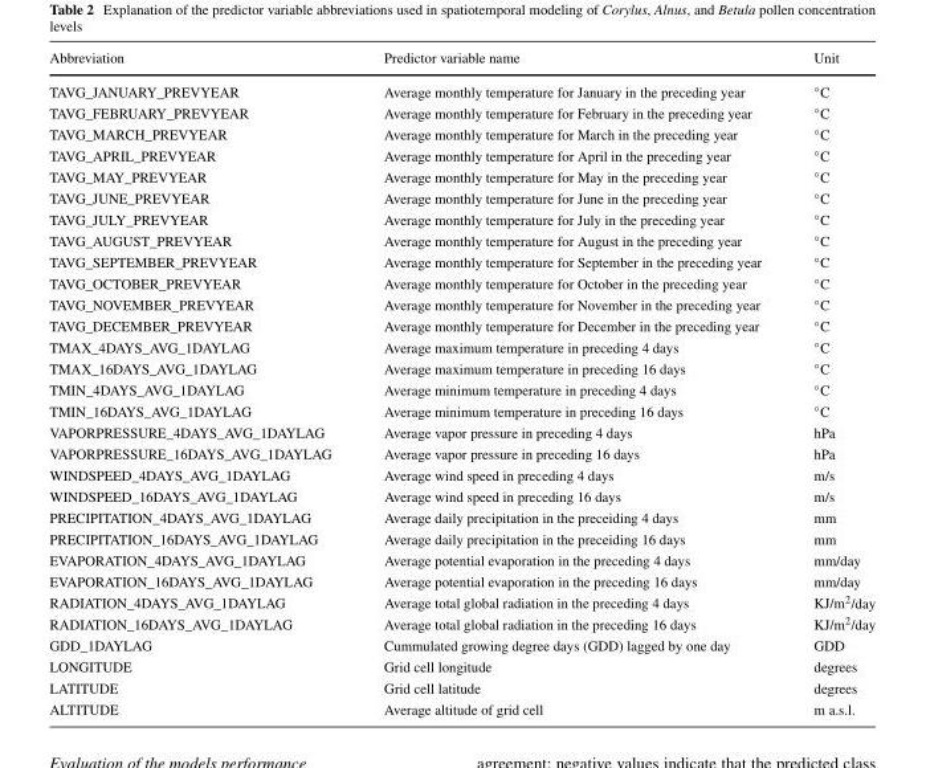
<table><thead><tr><td>Abbreviation</td><td>Predictor variable name</td><td>Unit</td></tr></thead><tbody><tr><td>TAVG_JANUARY_PREVYEAR</td><td>Average monthly temperature for January in the preceding year</td><td>◦C</td></tr><tr><td>TAVG_FEBRUARY_PREVYEAR</td><td>Average monthly temperature for February in the preceding year</td><td>◦C</td></tr><tr><td>TAVG_MARCH_PREVYEAR</td><td>Average monthly temperature for March in the preceding year</td><td>◦C</td></tr><tr><td>TAVG_APRIL_PREVYEAR</td><td>Average monthly temperature for April in the preceding year</td><td>◦C</td></tr><tr><td>TAVG_MAY_PREVYEAR</td><td>Average monthly temperature for May in the preceding year</td><td>◦C</td></tr><tr><td>TAVG_JUNE_PREVYEAR</td><td>Average monthly temperature for June in the preceding year</td><td>◦C</td></tr><tr><td>TAVG_JULY_PREVYEAR</td><td>Average monthly temperature for July in the preceding year</td><td>◦C</td></tr><tr><td>TAVG_AUGUST_PREVYEAR</td><td>Average monthly temperature for August in the preceding year</td><td>◦C</td></tr><tr><td>TAVG_SEPTEMBER_PREVYEAR</td><td>Average monthly temperature for September in the preceding year</td><td>◦C</td></tr><tr><td>TAVG_OCTOBER_PREVYEAR</td><td>Average monthly temperature for October in the preceding year</td><td>◦C</td></tr><tr><td>TAVG_NOVEMBER_PREVYEAR</td><td>Average monthly temperature for November in the preceding year</td><td>◦C</td></tr><tr><td>TAVG_DECEMBER_PREVYEAR</td><td>Average monthly temperature for December in the preceding year</td><td>◦C</td></tr><tr><td>TMAX_4DAYS_AVG_1DAYLAG</td><td>Average maximum temperature in preceding 4 days</td><td>◦C</td></tr><tr><td>TMAX_16DAYS_AVG_1DAYLAG</td><td>Average maximum temperature in preceding 16 days</td><td>◦C</td></tr><tr><td>TMIN_4DAYS_AVG_1DAYLAG</td><td>Average minimum temperature in preceding 4 days</td><td>◦C</td></tr><tr><td>TMIN_16DAYS_AVG_1DAYLAG</td><td>Average minimum temperature in preceding 16 days</td><td>◦C</td></tr><tr><td>VAPORPRESSURE_4DAYS_AVG_1DAYLAG</td><td>Average vapor pressure in preceding 4 days</td><td>hPa</td></tr><tr><td>VAPORPRESSURE_16DAYS_AVG_1DAYLAG</td><td>Average vapor pressure in preceding 16 days</td><td>hPa</td></tr><tr><td>WINDSPEED_4DAYS_AVG_1DAYLAG</td><td>Average wind speed in preceding 4 days</td><td>m/s</td></tr><tr><td>WINDSPEED_16DAYS_AVG_1DAYLAG</td><td>Average wind speed in preceding 16 days</td><td>m/s</td></tr><tr><td>PRECIPITATION_4DAYS_AVG_1DAYLAG</td><td>Average daily precipitation in the preceiding 4 days</td><td>mm</td></tr><tr><td>PRECIPITATION_16DAYS_AVG_1DAYLAG</td><td>Average daily precipitation in the preceiding 16 days</td><td>mm</td></tr><tr><td>EVAPORATION_4DAYS_AVG_1DAYLAG</td><td>Average potential evaporation in the preceding 4 days</td><td>mm/day</td></tr><tr><td>EVAPORATION_16DAYS_AVG_1DAYLAG</td><td>Average potential evaporation in the preceding 16 days</td><td>mm/day</td></tr><tr><td>RADIATION_4DAYS_AVG_1DAYLAG</td><td>Average total global radiation in the preceding 4 days</td><td>KJ/m<sup>2</sup>/day</td></tr><tr><td>RADIATION_16DAYS_AVG_1DAYLAG</td><td>Average total global radiation in the preceding 16 days</td><td>KJ/m<sup>2</sup>/day</td></tr><tr><td>GDD_1DAYLAG</td><td>Cummulated growing degree days (GDD) lagged by one day</td><td>GDD</td></tr><tr><td>LONGITUDE</td><td>Grid cell longitude</td><td>degrees</td></tr><tr><td>LATITUDE</td><td>Grid cell latitude</td><td>degrees</td></tr><tr><td>ALTITUDE</td><td>Average altitude of grid cell</td><td>m a.s.l.</td></tr></tbody></table>